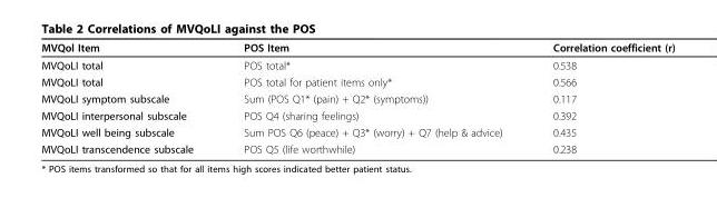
<table><thead><tr><td>MVQol Item</td><td>POS Item</td><td>Correlation coefficient (r)</td></tr></thead><tbody><tr><td>MVQoLI total</td><td>POS total*</td><td>0.538</td></tr><tr><td>MVQoLI total</td><td>POS total for patient items only*</td><td>0.566</td></tr><tr><td>MVQoLI symptom subscale</td><td>Sum (POS Q1* (pain) + Q2* (symptoms))</td><td>0.117</td></tr><tr><td>MVQoLI interpersonal subscale</td><td>POS Q4 (sharing feelings)</td><td>0.392</td></tr><tr><td>MVQoLI well being subscale</td><td>Sum POS Q6 (peace) + Q3* (worry) + Q7 (help &amp; advice)</td><td>0.435</td></tr><tr><td>MVQoLI transcendence subscale</td><td>POS Q5 (life worthwhile)</td><td>0.238</td></tr></tbody></table>